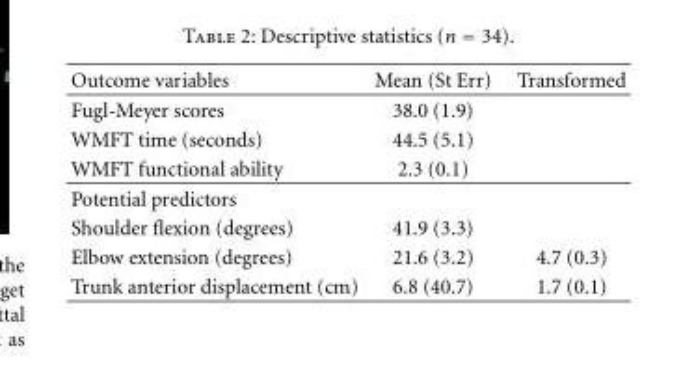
<table><thead><tr><td>Outcome variables</td><td>Mean (St Err)</td><td>Transformed</td></tr></thead><tbody><tr><td>Fugl-Meyer scores</td><td>38.0 (1.9)</td><td></td></tr><tr><td>WMFT time (seconds)</td><td>44.5 (5.1)</td><td></td></tr><tr><td>WMFT functional ability</td><td>2.3 (0.1)</td><td></td></tr><tr><td colspan="3">Potential predictors</td></tr><tr><td>Shoulder flexion (degrees)</td><td>41.9 (3.3)</td><td></td></tr><tr><td>Elbow extension (degrees)</td><td>21.6 (3.2)</td><td>4.7 (0.3)</td></tr><tr><td>Trunk anterior displacement (cm)</td><td>6.8 (40.7)</td><td>1.7 (0.1)</td></tr></tbody></table>